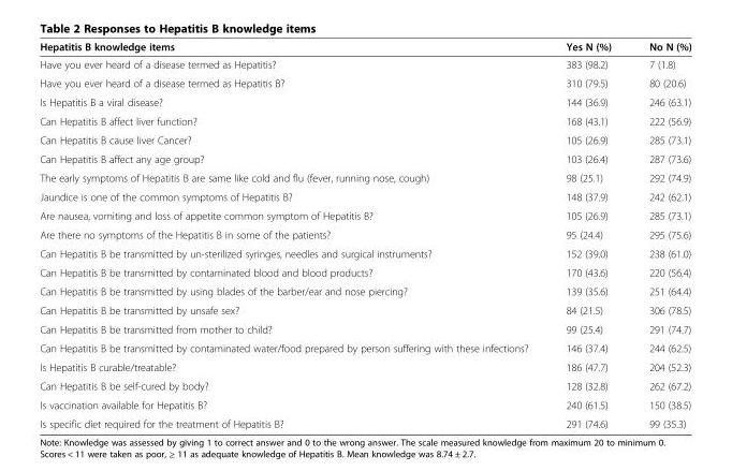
<table><thead><tr><td>Hepatitis B knowledge items</td><td>Yes N (%)</td><td>No N (%)</td></tr></thead><tbody><tr><td>Have you ever heard of a disease termed as Hepatitis?</td><td>383 (98.2)</td><td>7 (1.8)</td></tr><tr><td>Have you ever heard of a disease termed as Hepatitis B?</td><td>310 (79.5)</td><td>80 (20.6)</td></tr><tr><td>Is Hepatitis B a viral disease?</td><td>144 (36.9)</td><td>246 (63.1)</td></tr><tr><td>Can Hepatitis B affect liver function?</td><td>168 (43.1)</td><td>222 (56.9)</td></tr><tr><td>Can Hepatitis B cause liver Cancer?</td><td>105 (26.9)</td><td>285 (73.1)</td></tr><tr><td>Can Hepatitis B affect any age group?</td><td>103 (26.4)</td><td>287 (73.6)</td></tr><tr><td>The early symptoms of Hepatitis B are same like cold and flu (fever, running nose, cough)</td><td>98 (25.1)</td><td>292 (74.9)</td></tr><tr><td>Jaundice is one of the common symptoms of Hepatitis B?</td><td>148 (37.9)</td><td>242 (62.1)</td></tr><tr><td>Are nausea, vomiting and loss of appetite common symptom of Hepatitis B?</td><td>105 (26.9)</td><td>285 (73.1)</td></tr><tr><td>Are there no symptoms of the Hepatitis B in some of the patients?</td><td>95 (24.4)</td><td>295 (75.6)</td></tr><tr><td>Can Hepatitis B be transmitted by un-sterilized syringes, needles and surgical instruments?</td><td>152 (39.0)</td><td>238 (61.0)</td></tr><tr><td>Can Hepatitis B be transmitted by contaminated blood and blood products?</td><td>170 (43.6)</td><td>220 (56.4)</td></tr><tr><td>Can Hepatitis B be transmitted by using blades of the barber/ear and nose piercing?</td><td>139 (35.6)</td><td>251 (64.4)</td></tr><tr><td>Can Hepatitis B be transmitted by unsafe sex?</td><td>84 (21.5)</td><td>306 (78.5)</td></tr><tr><td>Can Hepatitis B be transmitted from mother to child?</td><td>99 (25.4)</td><td>291 (74.7)</td></tr><tr><td>Can Hepatitis B be transmitted by contaminated water/food prepared by person suffering with these infections?</td><td>146 (37.4)</td><td>244 (62.5)</td></tr><tr><td>Is Hepatitis B curable/treatable?</td><td>186 (47.7)</td><td>204 (52.3)</td></tr><tr><td>Can Hepatitis B be self-cured by body?</td><td>128 (32.8)</td><td>262 (67.2)</td></tr><tr><td>Is vaccination available for Hepatitis B?</td><td>240 (61.5)</td><td>150 (38.5)</td></tr><tr><td>Is specific diet required for the treatment of Hepatitis B?</td><td>291 (74.6)</td><td>99 (35.3)</td></tr></tbody></table>